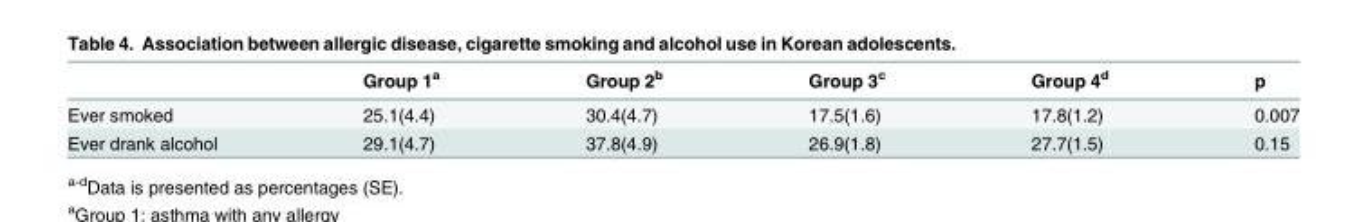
<table><thead><tr><td></td><td>Group 1<sup>a</sup></td><td>Group 2<sup>b</sup></td><td>Group 3<sup>c</sup></td><td>Group 4<sup>d</sup></td><td>p</td></tr></thead><tbody><tr><td>Ever smoked</td><td>25.1(4.4)</td><td>30.4(4.7)</td><td>17.5(1.6)</td><td>17.8(1.2)</td><td>0.007</td></tr><tr><td>Ever drank alcohol</td><td>29.1(4.7)</td><td>37.8(4.9)</td><td>26.9(1.8)</td><td>27.7(1.5)</td><td>0.15</td></tr></tbody></table>